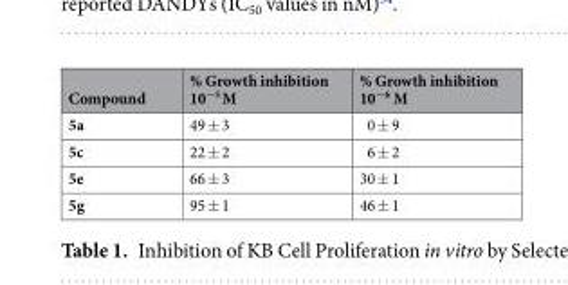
<table><thead><tr><td>Compound</td><td>% Growth inhibition 10<sup>−5</sup> M</td><td>% Growth inhibition 10<sup>−6</sup> M</td></tr></thead><tbody><tr><td>5a</td><td>49 ± 3</td><td>0 ± 9</td></tr><tr><td>5c</td><td>22 ± 2</td><td>6 ± 2</td></tr><tr><td>5e</td><td>66 ± 3</td><td>30 ± 1</td></tr><tr><td>5g</td><td>95 ± 1</td><td>46 ± 1</td></tr></tbody></table>